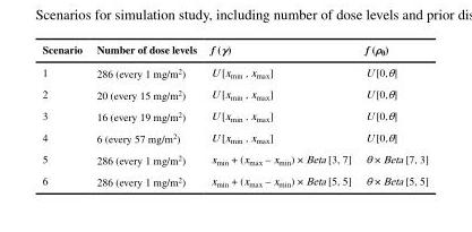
<table><thead><tr><td>Scenario</td><td>Number of dose levels</td><td>f (γ)</td><td>f (ρ<sub>0</sub>)</td></tr></thead><tbody><tr><td>1</td><td>286 (every 1 mg/m<sup>2</sup>)</td><td>U [x<sub>min</sub> , x<sub>max</sub>]</td><td>U [0,θ]</td></tr><tr><td>2</td><td>20 (every 15 mg/m<sup>2</sup>)</td><td>U [x<sub>min</sub> , x<sub>max</sub>]</td><td>U [0,θ]</td></tr><tr><td>3</td><td>16 (every 19 mg/m<sup>2</sup>)</td><td>U [x<sub>min</sub> , x<sub>max</sub>]</td><td>U [0,θ]</td></tr><tr><td>4</td><td>6 (every 57 mg/m<sup>2</sup>)</td><td>U [x<sub>min</sub> , x<sub>max</sub>]</td><td>U [0,θ]</td></tr><tr><td>5</td><td>286 (every 1 mg/m<sup>2</sup>)</td><td>x<sub>min</sub> + (x<sub>max</sub> – x<sub>min</sub>) × Beta [3, 7]</td><td>θ × Beta [7, 3]</td></tr><tr><td>6</td><td>286 (every 1 mg/m<sup>2</sup>)</td><td>x<sub>min</sub> + (x<sub>max</sub> – x<sub>min</sub>) × Beta [5, 5]</td><td>θ × Beta [5, 5]</td></tr></tbody></table>